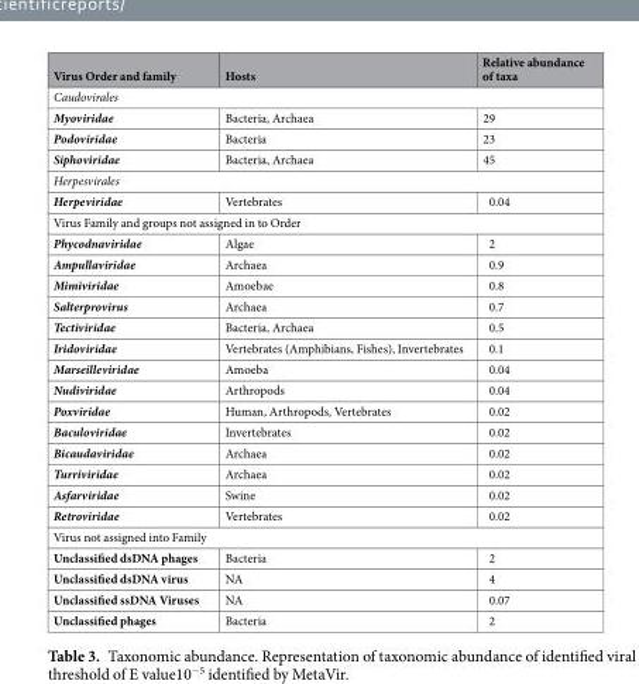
<table><thead><tr><td>Virus Order and family</td><td>Hosts</td><td>Relative abundance of taxa</td></tr></thead><tbody><tr><td colspan="3">Caudovirales</td></tr><tr><td>Myoviridae</td><td>Bacteria, Archaea</td><td>29</td></tr><tr><td>Podoviridae</td><td>Bacteria</td><td>23</td></tr><tr><td>Siphoviridae</td><td>Bacteria, Archaea</td><td>45</td></tr><tr><td colspan="3">Herpesvirales</td></tr><tr><td>Herpeviridae</td><td>Vertebrates</td><td>0.04</td></tr><tr><td colspan="3">Virus Family and groups not assigned in to Order</td></tr><tr><td>Phycodnaviridae</td><td>Algae</td><td>2</td></tr><tr><td>Ampullaviridae</td><td>Archaea</td><td>0.9</td></tr><tr><td>Mimiviridae</td><td>Amoebae</td><td>0.8</td></tr><tr><td>Salterprovirus</td><td>Archaea</td><td>0.7</td></tr><tr><td>Tectiviridae</td><td>Bacteria, Archaea</td><td>0.5</td></tr><tr><td>Iridoviridae</td><td>Vertebrates (Amphibians, Fishes), Invertebrates</td><td>0.1</td></tr><tr><td>Marseilleviridae</td><td>Amoeba</td><td>0.04</td></tr><tr><td>Nudiviridae</td><td>Arthropods</td><td>0.04</td></tr><tr><td>Poxviridae</td><td>Human, Arthropods, Vertebrates</td><td>0.02</td></tr><tr><td>Baculoviridae</td><td>Invertebrates</td><td>0.02</td></tr><tr><td>Bicaudaviridae</td><td>Archaea</td><td>0.02</td></tr><tr><td>Turriviridae</td><td>Archaea</td><td>0.02</td></tr><tr><td>Asfarviridae</td><td>Swine</td><td>0.02</td></tr><tr><td>Retroviridae</td><td>Vertebrates</td><td>0.02</td></tr><tr><td colspan="3">Virus not assigned into Family</td></tr><tr><td>Unclassified dsDNA phages</td><td>Bacteria</td><td>2</td></tr><tr><td>Unclassified dsDNA virus</td><td>NA</td><td>4</td></tr><tr><td>Unclassified ssDNA Viruses</td><td>NA</td><td>0.07</td></tr><tr><td>Unclassified phages</td><td>Bacteria</td><td>2</td></tr></tbody></table>